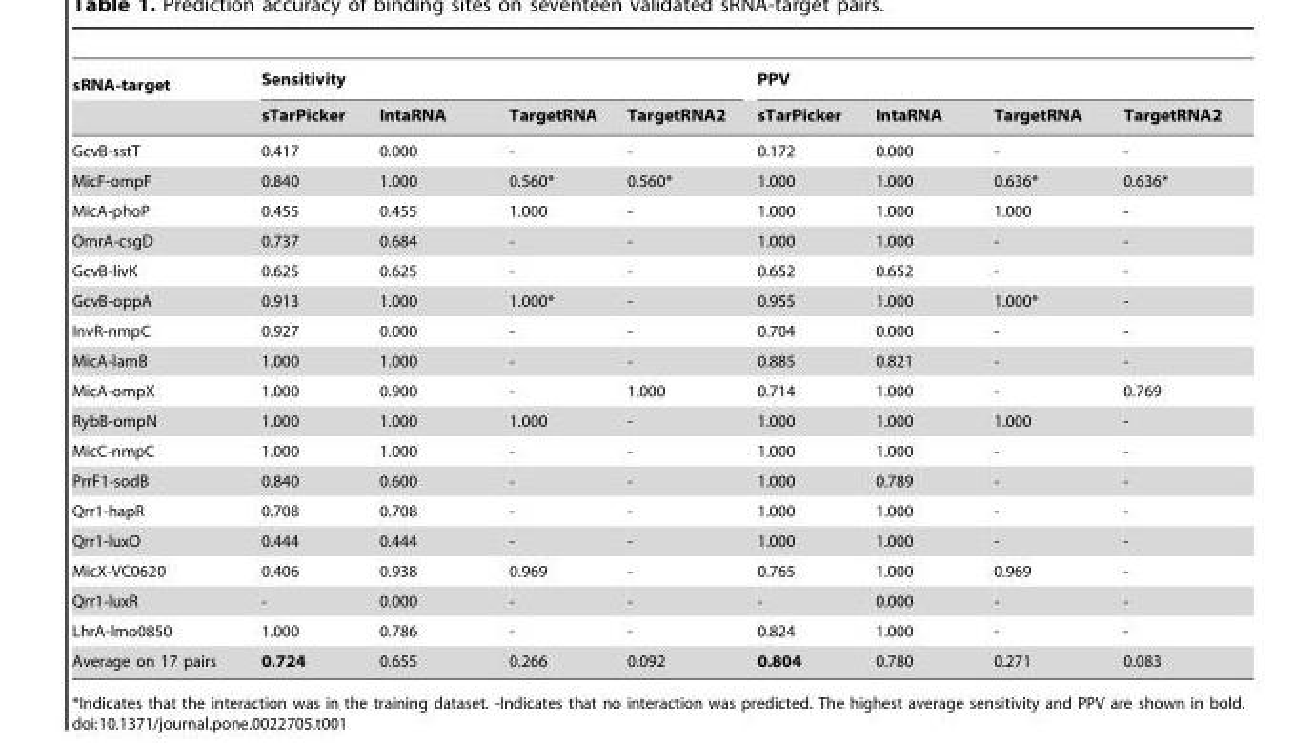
<table><thead><tr><td rowspan="2">sRNA-target</td><td colspan="4">Sensitivity</td><td colspan="4">PPV</td></tr><tr><td>sTarPicker</td><td>IntaRNA</td><td>TargetRNA</td><td>TargetRNA2</td><td>sTarPicker</td><td>IntaRNA</td><td>TargetRNA</td><td>TargetRNA2</td></tr></thead><tbody><tr><td>GcvB-sstT</td><td>0.417</td><td>0.000</td><td>-</td><td>-</td><td>0.172</td><td>0.000</td><td>-</td><td>-</td></tr><tr><td>MicF-ompF</td><td>0.840</td><td>1.000</td><td>0.560*</td><td>0.560*</td><td>1.000</td><td>1.000</td><td>0.636*</td><td>0.636*</td></tr><tr><td>MicA-phoP</td><td>0.455</td><td>0.455</td><td>1.000</td><td>-</td><td>1.000</td><td>1.000</td><td>1.000</td><td>-</td></tr><tr><td>OmrA-csgD</td><td>0.737</td><td>0.684</td><td>-</td><td>-</td><td>1.000</td><td>1.000</td><td>-</td><td>-</td></tr><tr><td>GcvB-livK</td><td>0.625</td><td>0.625</td><td>-</td><td>-</td><td>0.652</td><td>0.652</td><td>-</td><td>-</td></tr><tr><td>GcvB-oppA</td><td>0.913</td><td>1.000</td><td>1.000*</td><td>-</td><td>0.955</td><td>1.000</td><td>1.000*</td><td>-</td></tr><tr><td>InvR-nmpC</td><td>0.927</td><td>0.000</td><td>-</td><td>-</td><td>0.704</td><td>0.000</td><td>-</td><td>-</td></tr><tr><td>MicA-lamB</td><td>1.000</td><td>1.000</td><td>-</td><td>-</td><td>0.885</td><td>0.821</td><td>-</td><td>-</td></tr><tr><td>MicA-ompX</td><td>1.000</td><td>0.900</td><td>-</td><td>1.000</td><td>0.714</td><td>1.000</td><td>-</td><td>0.769</td></tr><tr><td>RybB-ompN</td><td>1.000</td><td>1.000</td><td>1.000</td><td>-</td><td>1.000</td><td>1.000</td><td>1.000</td><td>-</td></tr><tr><td>MicC-nmpC</td><td>1.000</td><td>1.000</td><td>-</td><td>-</td><td>1.000</td><td>1.000</td><td>-</td><td>-</td></tr><tr><td>PrrF1-sodB</td><td>0.840</td><td>0.600</td><td>-</td><td>-</td><td>1.000</td><td>0.789</td><td>-</td><td>-</td></tr><tr><td>Qrr1-hapR</td><td>0.708</td><td>0.708</td><td>-</td><td>-</td><td>1.000</td><td>1.000</td><td>-</td><td>-</td></tr><tr><td>Qrr1-luxO</td><td>0.444</td><td>0.444</td><td>-</td><td>-</td><td>1.000</td><td>1.000</td><td>-</td><td>-</td></tr><tr><td>MicX-VC0620</td><td>0.406</td><td>0.938</td><td>0.969</td><td>-</td><td>0.765</td><td>1.000</td><td>0.969</td><td>-</td></tr><tr><td>Qrr1-luxR</td><td>-</td><td>0.000</td><td>-</td><td>-</td><td>-</td><td>0.000</td><td>-</td><td>-</td></tr><tr><td>LhrA-lmo0850</td><td>1.000</td><td>0.786</td><td>-</td><td>-</td><td>0.824</td><td>1.000</td><td>-</td><td>-</td></tr><tr><td>Average on 17 pairs</td><td>0.724</td><td>0.655</td><td>0.266</td><td>0.092</td><td>0.804</td><td>0.780</td><td>0.271</td><td>0.083</td></tr></tbody></table>